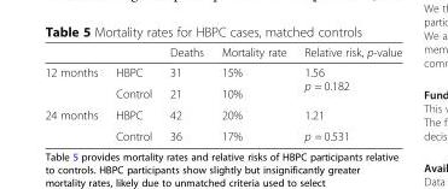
<table><thead><tr><td></td><td></td><td>Deaths</td><td>Mortality rate</td><td>Relative risk, p-value</td></tr></thead><tbody><tr><td rowspan="2">12 months</td><td>HBPC</td><td>31</td><td>15%</td><td rowspan="2">1.56 p = 0.182</td></tr><tr><td>Control</td><td>21</td><td>10%</td></tr><tr><td rowspan="2">24 months</td><td>HBPC</td><td>42</td><td>20%</td><td>1.21</td></tr><tr><td>Control</td><td>36</td><td>17%</td><td>p = 0.531</td></tr></tbody></table>